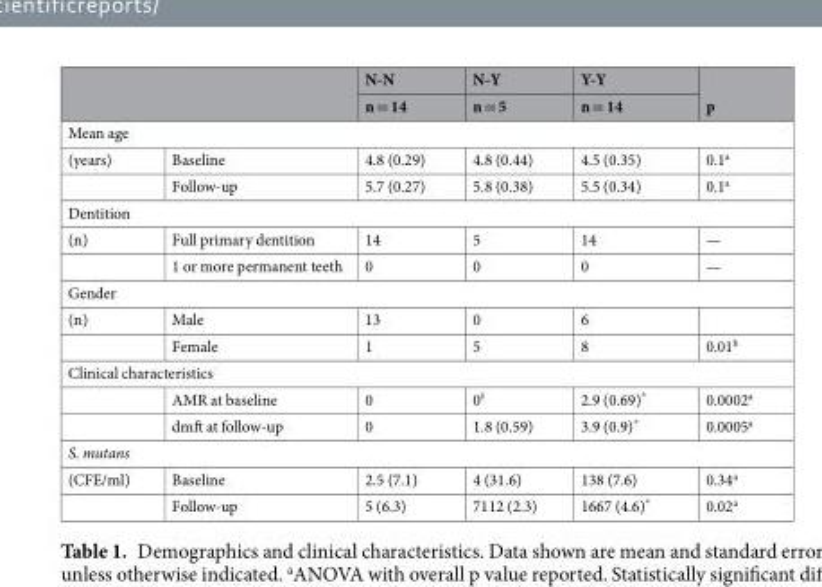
<table><thead><tr><td rowspan="2"></td><td rowspan="2"></td><td rowspan="2">N-N n = 14</td><td rowspan="2">N-Y n = 5</td><td rowspan="2">Y-Y n = 14</td><td rowspan="2">p</td></tr><tr></tr></thead><tbody><tr><td colspan="6">Mean age</td></tr><tr><td rowspan="2">(years)</td><td>Baseline</td><td>4.8 (0.29)</td><td>4.8 (0.44)</td><td>4.5 (0.35)</td><td>0.1<sup>a</sup></td></tr><tr><td>Follow-up</td><td>5.7 (0.27)</td><td>5.8 (0.38)</td><td>5.5 (0.34)</td><td>0.1<sup>a</sup></td></tr><tr><td colspan="6">Dentition</td></tr><tr><td rowspan="2">(n)</td><td>Full primary dentition</td><td>14</td><td>5</td><td>14</td><td>—</td></tr><tr><td>1 or more permanent teeth</td><td>0</td><td>0</td><td>0</td><td>—</td></tr><tr><td colspan="6">Gender</td></tr><tr><td rowspan="2">(n)</td><td>Male</td><td>13</td><td>0</td><td>6</td><td></td></tr><tr><td>Female</td><td>1</td><td>5</td><td>8</td><td>0.01<sup>b</sup></td></tr><tr><td colspan="6">Clinical characteristics</td></tr><tr><td></td><td>AMR at baseline</td><td>0</td><td>0<sup>δ</sup></td><td>2.9 (0.69)*</td><td>0.0002<sup>a</sup></td></tr><tr><td></td><td>dmft at follow-up</td><td>0</td><td>1.8 (0.59)</td><td>3.9 (0.9)*</td><td>0.0005<sup>a</sup></td></tr><tr><td colspan="6">S. mutans</td></tr><tr><td rowspan="2">(CFE/ml)</td><td>Baseline</td><td>2.5 (7.1)</td><td>4 (31.6)</td><td>138 (7.6)</td><td>0.34<sup>a</sup></td></tr><tr><td>Follow-up</td><td>5 (6.3)</td><td>7112 (2.3)</td><td>1667 (4.6)*</td><td>0.02<sup>a</sup></td></tr></tbody></table>